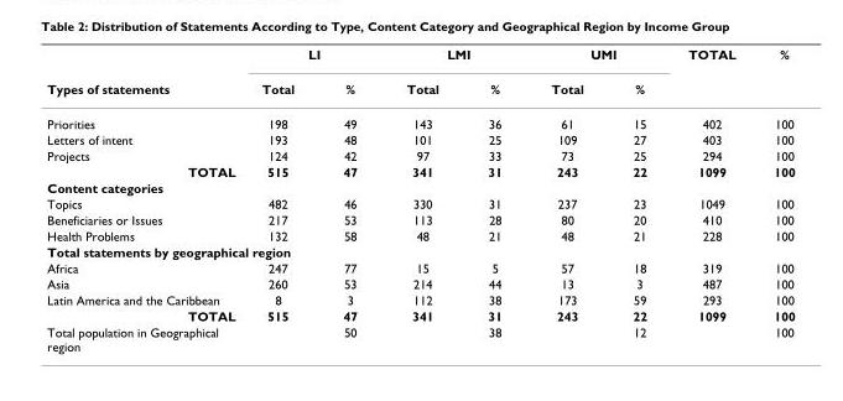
<table><thead><tr><td rowspan="2">Types of statements</td><td colspan="2">LI</td><td colspan="2">LMI</td><td colspan="2">UMI</td><td rowspan="2">TOTAL</td><td rowspan="2">%</td></tr><tr><td>Total</td><td>%</td><td>Total</td><td>%</td><td>Total</td><td>%</td></tr></thead><tbody><tr><td>Priorities</td><td>198</td><td>49</td><td>143</td><td>36</td><td>61</td><td>15</td><td>402</td><td>100</td></tr><tr><td>Letters of intent</td><td>193</td><td>48</td><td>101</td><td>25</td><td>109</td><td>27</td><td>403</td><td>100</td></tr><tr><td>Projects</td><td>124</td><td>42</td><td>97</td><td>33</td><td>73</td><td>25</td><td>294</td><td>100</td></tr><tr><td>TOTAL</td><td>515</td><td>47</td><td>341</td><td>31</td><td>243</td><td>22</td><td>1099</td><td>100</td></tr><tr><td colspan="9">Content categories</td></tr><tr><td>Topics</td><td>482</td><td>46</td><td>330</td><td>31</td><td>237</td><td>23</td><td>1049</td><td>100</td></tr><tr><td>Beneficiaries or Issues</td><td>217</td><td>53</td><td>113</td><td>28</td><td>80</td><td>20</td><td>410</td><td>100</td></tr><tr><td>Health Problems</td><td>132</td><td>58</td><td>48</td><td>21</td><td>48</td><td>21</td><td>228</td><td>100</td></tr><tr><td colspan="9">Total statements by geographical region</td></tr><tr><td>Africa</td><td>247</td><td>77</td><td>15</td><td>5</td><td>57</td><td>18</td><td>319</td><td>100</td></tr><tr><td>Asia</td><td>260</td><td>53</td><td>214</td><td>44</td><td>13</td><td>3</td><td>487</td><td>100</td></tr><tr><td>Latin America and the Caribbean</td><td>8</td><td>3</td><td>112</td><td>38</td><td>173</td><td>59</td><td>293</td><td>100</td></tr><tr><td>TOTAL</td><td>515</td><td>47</td><td>341</td><td>31</td><td>243</td><td>22</td><td>1099</td><td>100</td></tr><tr><td>Total population in Geographical region</td><td></td><td>50</td><td></td><td>38</td><td></td><td>12</td><td></td><td>100</td></tr></tbody></table>